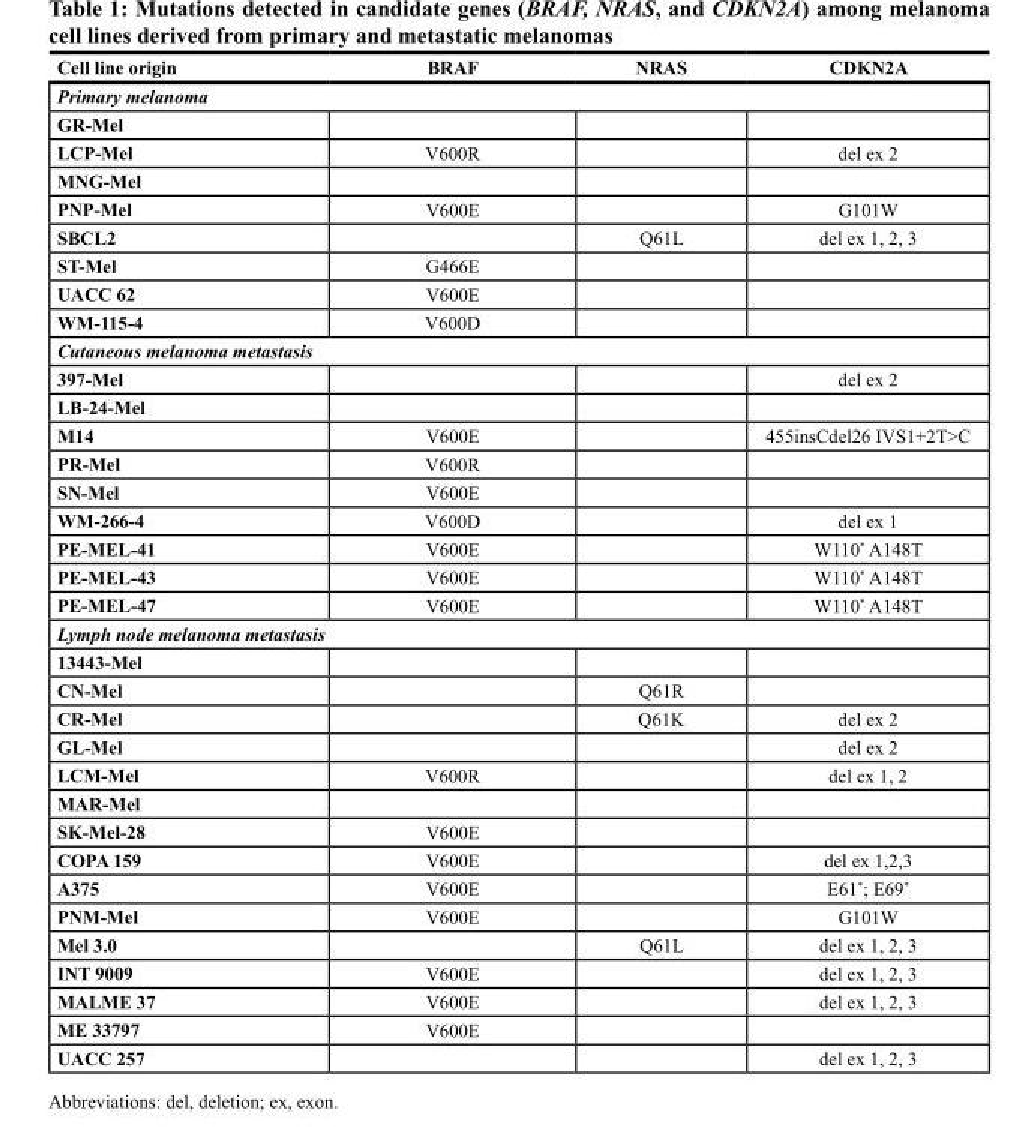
<table><thead><tr><td>Cell line origin</td><td>BRAF</td><td>NRAS</td><td>CDKN2A</td></tr></thead><tbody><tr><td colspan="4">Primary melanoma</td></tr><tr><td colspan="4">GR-Mel</td></tr><tr><td>LCP-Mel</td><td>V600R</td><td></td><td>del ex 2</td></tr><tr><td colspan="4">MNG-Mel</td></tr><tr><td>PNP-Mel</td><td>V600E</td><td></td><td>G101W</td></tr><tr><td>SBCL2</td><td></td><td>Q61L</td><td>del ex 1, 2, 3</td></tr><tr><td>ST-Mel</td><td>G466E</td><td></td><td></td></tr><tr><td>UACC 62</td><td>V600E</td><td></td><td></td></tr><tr><td>WM-115-4</td><td>V600D</td><td></td><td></td></tr><tr><td colspan="4">Cutaneous melanoma metastasis</td></tr><tr><td>397-Mel</td><td></td><td></td><td>del ex 2</td></tr><tr><td colspan="4">LB-24-Mel</td></tr><tr><td>M14</td><td>V600E</td><td></td><td>455insCdel26 IVS1+2T&gt;C</td></tr><tr><td>PR-Mel</td><td>V600R</td><td></td><td></td></tr><tr><td>SN-Mel</td><td>V600E</td><td></td><td></td></tr><tr><td>WM-266-4</td><td>V600D</td><td></td><td>del ex 1</td></tr><tr><td>PE-MEL-41</td><td>V600E</td><td></td><td>W110* A148T</td></tr><tr><td>PE-MEL-43</td><td>V600E</td><td></td><td>W110* A148T</td></tr><tr><td>PE-MEL-47</td><td>V600E</td><td></td><td>W110* A148T</td></tr><tr><td colspan="4">Lymph node melanoma metastasis</td></tr><tr><td colspan="4">13443-Mel</td></tr><tr><td>CN-Mel</td><td></td><td>Q61R</td><td></td></tr><tr><td>CR-Mel</td><td></td><td>Q61K</td><td>del ex 2</td></tr><tr><td>GL-Mel</td><td></td><td></td><td>del ex 2</td></tr><tr><td>LCM-Mel</td><td>V600R</td><td></td><td>del ex 1, 2</td></tr><tr><td colspan="4">MAR-Mel</td></tr><tr><td>SK-Mel-28</td><td>V600E</td><td></td><td></td></tr><tr><td>COPA 159</td><td>V600E</td><td></td><td>del ex 1,2,3</td></tr><tr><td>A375</td><td>V600E</td><td></td><td>E61*; E69*</td></tr><tr><td>PNM-Mel</td><td>V600E</td><td></td><td>G101W</td></tr><tr><td>Mel 3.0</td><td></td><td>Q61L</td><td>del ex 1, 2, 3</td></tr><tr><td>INT 9009</td><td>V600E</td><td></td><td>del ex 1, 2, 3</td></tr><tr><td>MALME 37</td><td>V600E</td><td></td><td>del ex 1, 2, 3</td></tr><tr><td>ME 33797</td><td>V600E</td><td></td><td></td></tr><tr><td>UACC 257</td><td></td><td></td><td>del ex 1, 2, 3</td></tr></tbody></table>